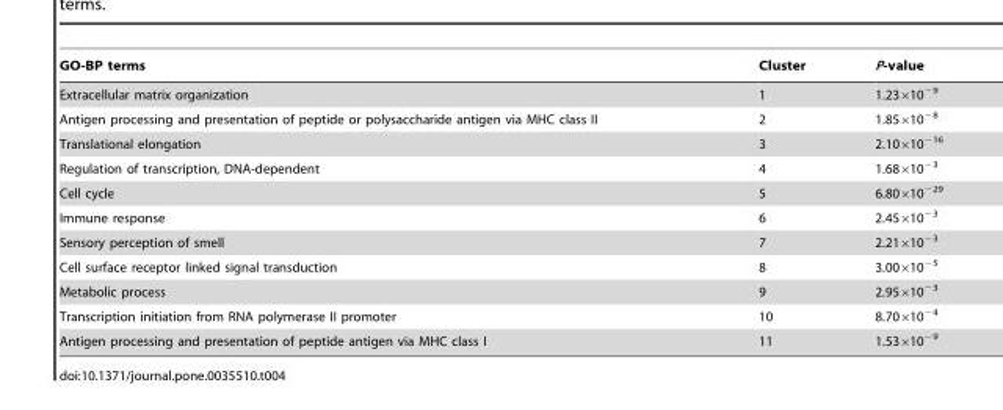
<table><thead><tr><td>GO-BP terms</td><td>Cluster</td><td>P-value</td></tr></thead><tbody><tr><td>Extracellular matrix organization</td><td>1</td><td>1.23×10<sup>−9</sup></td></tr><tr><td>Antigen processing and presentation of peptide or polysaccharide antigen via MHC class II</td><td>2</td><td>1.85×10<sup>−8</sup></td></tr><tr><td>Translational elongation</td><td>3</td><td>2.10×10<sup>−16</sup></td></tr><tr><td>Regulation of transcription, DNA-dependent</td><td>4</td><td>1.68×10<sup>−3</sup></td></tr><tr><td>Cell cycle</td><td>5</td><td>6.80×10<sup>−29</sup></td></tr><tr><td>Immune response</td><td>6</td><td>2.45×10<sup>−3</sup></td></tr><tr><td>Sensory perception of smell</td><td>7</td><td>2.21×10<sup>−3</sup></td></tr><tr><td>Cell surface receptor linked signal transduction</td><td>8</td><td>3.00×10<sup>−5</sup></td></tr><tr><td>Metabolic process</td><td>9</td><td>2.95×10<sup>−3</sup></td></tr><tr><td>Transcription initiation from RNA polymerase II promoter</td><td>10</td><td>8.70×10<sup>−4</sup></td></tr><tr><td>Antigen processing and presentation of peptide antigen via MHC class I</td><td>11</td><td>1.53×10<sup>−9</sup></td></tr></tbody></table>